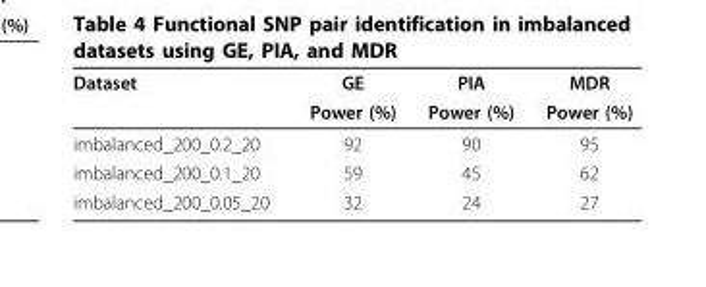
<table><thead><tr><td rowspan="2">Dataset</td><td rowspan="2">GE Power (%)</td><td rowspan="2">PIA Power (%)</td><td rowspan="2">MDR Power (%)</td></tr><tr></tr></thead><tbody><tr><td>imbalanced_200_0.2_20</td><td>92</td><td>90</td><td>95</td></tr><tr><td>imbalanced_200_0.1_20</td><td>59</td><td>45</td><td>62</td></tr><tr><td>imbalanced_200_0.05_20</td><td>32</td><td>24</td><td>27</td></tr></tbody></table>